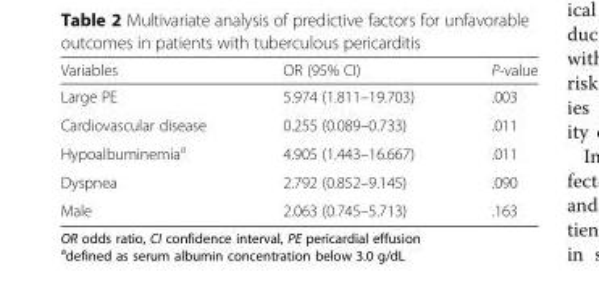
<table><thead><tr><td>Variables</td><td>OR (95% CI)</td><td>P-value</td></tr></thead><tbody><tr><td>Large PE</td><td>5.974 (1.811–19.703)</td><td>.003</td></tr><tr><td>Cardiovascular disease</td><td>0.255 (0.089–0.733)</td><td>.011</td></tr><tr><td>Hypoalbuminemia<sup>a</sup></td><td>4.905 (1.443–16.667)</td><td>.011</td></tr><tr><td>Dyspnea</td><td>2.792 (0.852–9.145)</td><td>.090</td></tr><tr><td>Male</td><td>2.063 (0.745–5.713)</td><td>.163</td></tr></tbody></table>